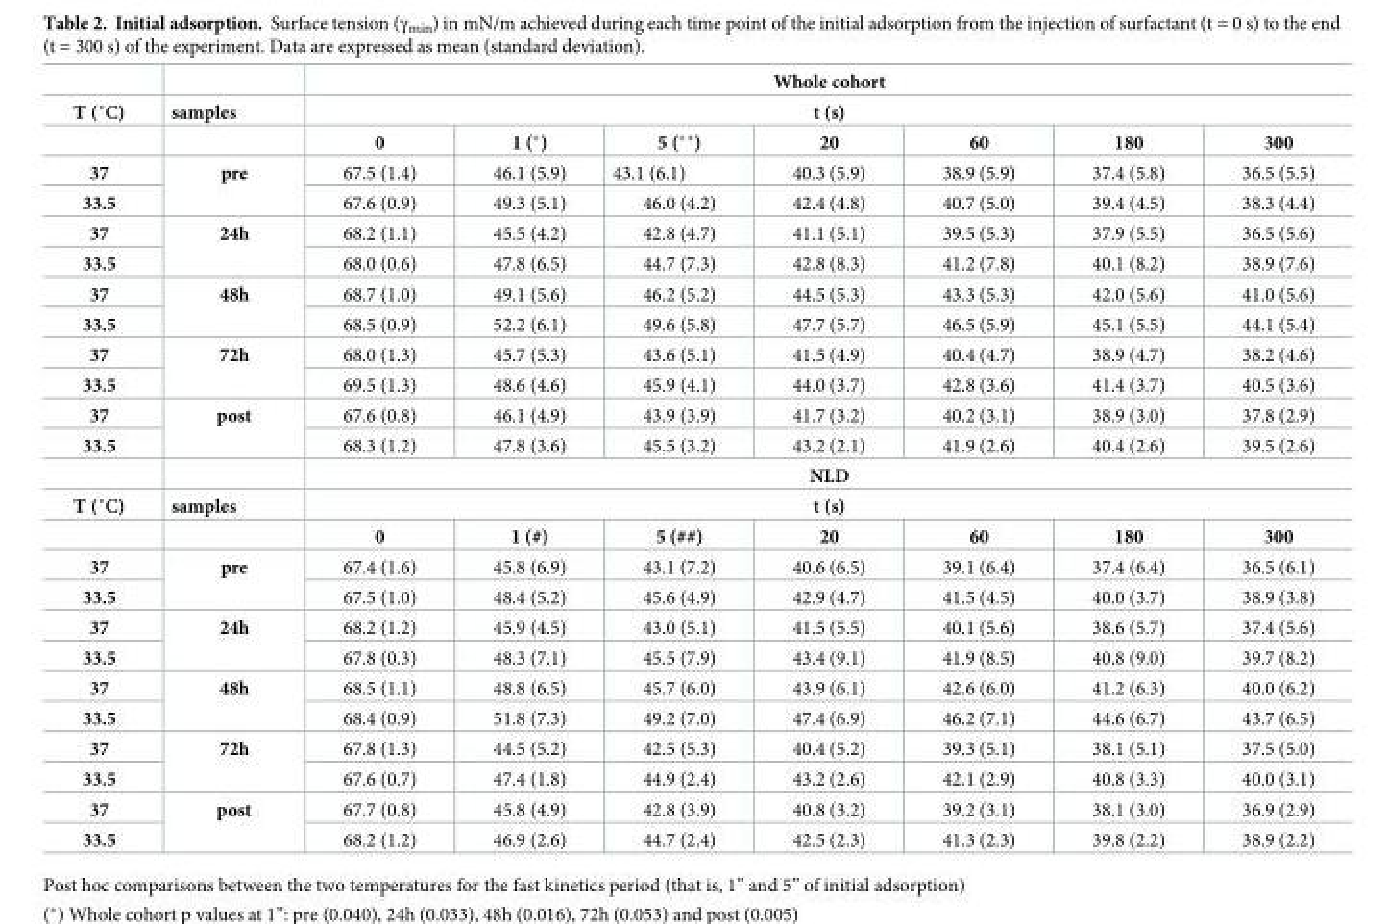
<table><thead><tr><td rowspan="3">T (˚C)</td><td rowspan="3">samples</td><td rowspan="2" colspan="7">Whole cohort t (s)</td></tr><tr></tr><tr><td>0</td><td>1 (*)</td><td>5 (**)</td><td>20</td><td>60</td><td>180</td><td>300</td></tr></thead><tbody><tr><td>37</td><td rowspan="2">pre</td><td>67.5 (1.4)</td><td>46.1 (5.9)</td><td>43.1 (6.1)</td><td>40.3 (5.9)</td><td>38.9 (5.9)</td><td>37.4 (5.8)</td><td>36.5 (5.5)</td></tr><tr><td>33.5</td><td>67.6 (0.9)</td><td>49.3 (5.1)</td><td>46.0 (4.2)</td><td>42.4 (4.8)</td><td>40.7 (5.0)</td><td>39.4 (4.5)</td><td>38.3 (4.4)</td></tr><tr><td>37</td><td rowspan="2">24h</td><td>68.2 (1.1)</td><td>45.5 (4.2)</td><td>42.8 (4.7)</td><td>41.1 (5.1)</td><td>39.5 (5.3)</td><td>37.9 (5.5)</td><td>36.5 (5.6)</td></tr><tr><td>33.5</td><td>68.0 (0.6)</td><td>47.8 (6.5)</td><td>44.7 (7.3)</td><td>42.8 (8.3)</td><td>41.2 (7.8)</td><td>40.1 (8.2)</td><td>38.9 (7.6)</td></tr><tr><td>37</td><td rowspan="2">48h</td><td>68.7 (1.0)</td><td>49.1 (5.6)</td><td>46.2 (5.2)</td><td>44.5 (5.3)</td><td>43.3 (5.3)</td><td>42.0 (5.6)</td><td>41.0 (5.6)</td></tr><tr><td>33.5</td><td>68.5 (0.9)</td><td>52.2 (6.1)</td><td>49.6 (5.8)</td><td>47.7 (5.7)</td><td>46.5 (5.9)</td><td>45.1 (5.5)</td><td>44.1 (5.4)</td></tr><tr><td>37</td><td rowspan="2">72h</td><td>68.0 (1.3)</td><td>45.7 (5.3)</td><td>43.6 (5.1)</td><td>41.5 (4.9)</td><td>40.4 (4.7)</td><td>38.9 (4.7)</td><td>38.2 (4.6)</td></tr><tr><td>33.5</td><td>69.5 (1.3)</td><td>48.6 (4.6)</td><td>45.9 (4.1)</td><td>44.0 (3.7)</td><td>42.8 (3.6)</td><td>41.4 (3.7)</td><td>40.5 (3.6)</td></tr><tr><td>37</td><td rowspan="2">post</td><td>67.6 (0.8)</td><td>46.1 (4.9)</td><td>43.9 (3.9)</td><td>41.7 (3.2)</td><td>40.2 (3.1)</td><td>38.9 (3.0)</td><td>37.8 (2.9)</td></tr><tr><td rowspan="2">33.5</td><td>68.3 (1.2)</td><td>47.8 (3.6)</td><td>45.5 (3.2)</td><td>43.2 (2.1)</td><td>41.9 (2.6)</td><td>40.4 (2.6)</td><td>39.5 (2.6)</td></tr><tr><td></td><td colspan="7">NLD</td></tr><tr><td rowspan="2">T (˚C)</td><td>samples</td><td colspan="7">t (s)</td></tr><tr><td></td><td>0</td><td>1 (#)</td><td>5 (##)</td><td>20</td><td>60</td><td>180</td><td>300</td></tr><tr><td>37</td><td rowspan="2">pre</td><td>67.4 (1.6)</td><td>45.8 (6.9)</td><td>43.1 (7.2)</td><td>40.6 (6.5)</td><td>39.1 (6.4)</td><td>37.4 (6.4)</td><td>36.5 (6.1)</td></tr><tr><td>33.5</td><td>67.5 (1.0)</td><td>48.4 (5.2)</td><td>45.6 (4.9)</td><td>42.9 (4.7)</td><td>41.5 (4.5)</td><td>40.0 (3.7)</td><td>38.9 (3.8)</td></tr><tr><td>37</td><td rowspan="2">24h</td><td>68.2 (1.2)</td><td>45.9 (4.5)</td><td>43.0 (5.1)</td><td>41.5 (5.5)</td><td>40.1 (5.6)</td><td>38.6 (5.7)</td><td>37.4 (5.6)</td></tr><tr><td>33.5</td><td>67.8 (0.3)</td><td>48.3 (7.1)</td><td>45.5 (7.9)</td><td>43.4 (9.1)</td><td>41.9 (8.5)</td><td>40.8 (9.0)</td><td>39.7 (8.2)</td></tr><tr><td>37</td><td rowspan="2">48h</td><td>68.5 (1.1)</td><td>48.8 (6.5)</td><td>45.7 (6.0)</td><td>43.9 (6.1)</td><td>42.6 (6.0)</td><td>41.2 (6.3)</td><td>40.0 (6.2)</td></tr><tr><td>33.5</td><td>68.4 (0.9)</td><td>51.8 (7.3)</td><td>49.2 (7.0)</td><td>47.4 (6.9)</td><td>46.2 (7.1)</td><td>44.6 (6.7)</td><td>43.7 (6.5)</td></tr><tr><td>37</td><td rowspan="2">72h</td><td>67.8 (1.3)</td><td>44.5 (5.2)</td><td>42.5 (5.3)</td><td>40.4 (5.2)</td><td>39.3 (5.1)</td><td>38.1 (5.1)</td><td>37.5 (5.0)</td></tr><tr><td>33.5</td><td>67.6 (0.7)</td><td>47.4 (1.8)</td><td>44.9 (2.4)</td><td>43.2 (2.6)</td><td>42.1 (2.9)</td><td>40.8 (3.3)</td><td>40.0 (3.1)</td></tr><tr><td>37</td><td rowspan="2">post</td><td>67.7 (0.8)</td><td>45.8 (4.9)</td><td>42.8 (3.9)</td><td>40.8 (3.2)</td><td>39.2 (3.1)</td><td>38.1 (3.0)</td><td>36.9 (2.9)</td></tr><tr><td>33.5</td><td>68.2 (1.2)</td><td>46.9 (2.6)</td><td>44.7 (2.4)</td><td>42.5 (2.3)</td><td>41.3 (2.3)</td><td>39.8 (2.2)</td><td>38.9 (2.2)</td></tr></tbody></table>